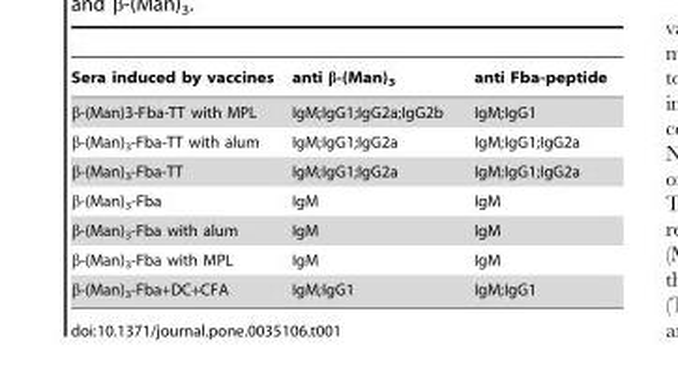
<table><thead><tr><td>Sera induced by vaccines</td><td>anti β-(Man)<sub>3</sub></td><td>anti Fba-peptide</td></tr></thead><tbody><tr><td>β-(Man)3-Fba-TT with MPL</td><td>IgM;IgG1;IgG2a;IgG2b</td><td>IgM;IgG1</td></tr><tr><td>β-(Man)<sub>3</sub>-Fba-TT with alum</td><td>IgM;IgG1;IgG2a</td><td>IgM;IgG1;IgG2a</td></tr><tr><td>β-(Man)<sub>3</sub>-Fba-TT</td><td>IgM;IgG1;IgG2a</td><td>IgM;IgG1;IgG2a</td></tr><tr><td>β-(Man)<sub>3</sub>-Fba</td><td>IgM</td><td>IgM</td></tr><tr><td>β-(Man)<sub>3</sub>-Fba with alum</td><td>IgM</td><td>IgM</td></tr><tr><td>β-(Man)<sub>3</sub>-Fba with MPL</td><td>IgM</td><td>IgM</td></tr><tr><td>β-(Man)<sub>3</sub>-Fba+DC+CFA</td><td>IgM;IgG1</td><td>IgM;IgG1</td></tr></tbody></table>